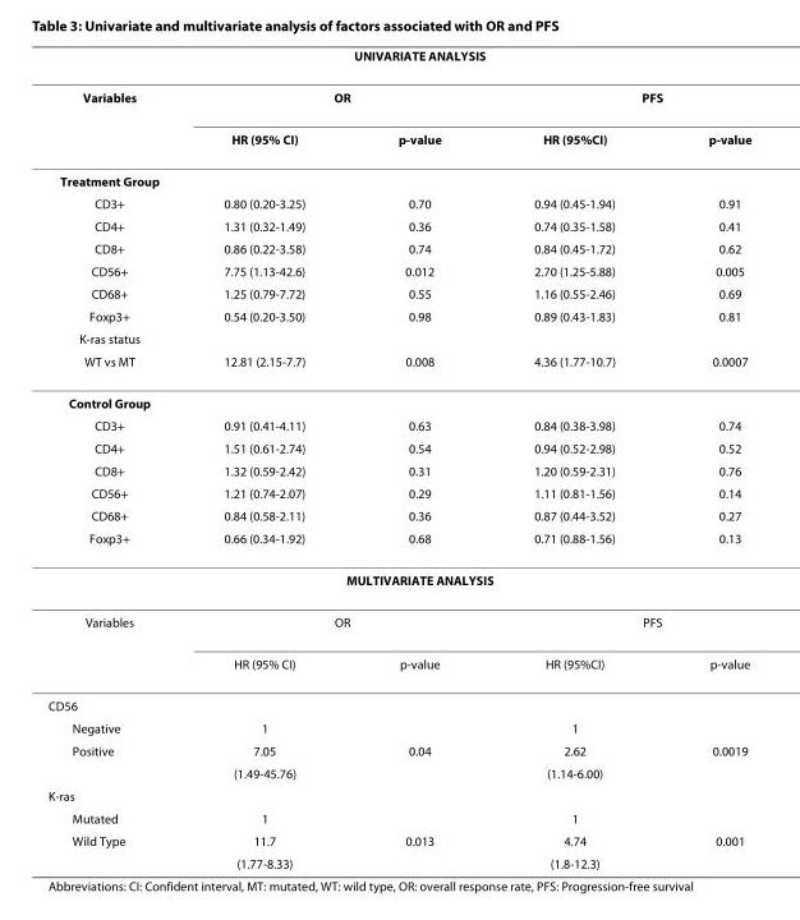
<table><thead><tr><td colspan="5">UNIVARIATE ANALYSIS</td></tr><tr><td rowspan="2">Variables</td><td colspan="2">OR</td><td colspan="2">PFS</td></tr><tr><td>HR (95% CI)</td><td>p-value</td><td>HR (95%CI)</td><td>p-value</td></tr></thead><tbody><tr><td colspan="5">Treatment Group</td></tr><tr><td>CD3+</td><td>0.80 (0.20-3.25)</td><td>0.70</td><td>0.94 (0.45-1.94)</td><td>0.91</td></tr><tr><td>CD4+</td><td>1.31 (0.32-1.49)</td><td>0.36</td><td>0.74 (0.35-1.58)</td><td>0.41</td></tr><tr><td>CD8+</td><td>0.86 (0.22-3.58)</td><td>0.74</td><td>0.84 (0.45-1.72)</td><td>0.62</td></tr><tr><td>CD56+</td><td>7.75 (1.13-42.6)</td><td>0.012</td><td>2.70 (1.25-5.88)</td><td>0.005</td></tr><tr><td>CD68+</td><td>1.25 (0.79-7.72)</td><td>0.55</td><td>1.16 (0.55-2.46)</td><td>0.69</td></tr><tr><td>Foxp3+</td><td>0.54 (0.20-3.50)</td><td>0.98</td><td>0.89 (0.43-1.83)</td><td>0.81</td></tr><tr><td colspan="5">K-ras status</td></tr><tr><td>WT vs MT</td><td>12.81 (2.15-7.7)</td><td>0.008</td><td>4.36 (1.77-10.7)</td><td>0.0007</td></tr><tr><td colspan="5">Control Group</td></tr><tr><td>CD3+</td><td>0.91 (0.41-4.11)</td><td>0.63</td><td>0.84 (0.38-3.98)</td><td>0.74</td></tr><tr><td>CD4+</td><td>1.51 (0.61-2.74)</td><td>0.54</td><td>0.94 (0.52-2.98)</td><td>0.52</td></tr><tr><td>CD8+</td><td>1.32 (0.59-2.42)</td><td>0.31</td><td>1.20 (0.59-2.31)</td><td>0.76</td></tr><tr><td>CD56+</td><td>1.21 (0.74-2.07)</td><td>0.29</td><td>1.11 (0.81-1.56)</td><td>0.14</td></tr><tr><td>CD68+</td><td>0.84 (0.58-2.11)</td><td>0.36</td><td>0.87 (0.44-3.52)</td><td>0.27</td></tr><tr><td>Foxp3+</td><td>0.66 (0.34-1.92)</td><td>0.68</td><td>0.71 (0.88-1.56)</td><td>0.13</td></tr><tr><td colspan="5">MULTIVARIATE ANALYSIS</td></tr><tr><td rowspan="2">Variables</td><td colspan="2">OR</td><td colspan="2">PFS</td></tr><tr><td>HR (95% CI)</td><td>p-value</td><td>HR (95%CI)</td><td>p-value</td></tr><tr><td colspan="5">CD56</td></tr><tr><td>Negative</td><td>1</td><td></td><td>1</td><td></td></tr><tr><td rowspan="2">Positive</td><td>7.05</td><td>0.04</td><td>2.62</td><td>0.0019</td></tr><tr><td>(1.49-45.76)</td><td></td><td>(1.14-6.00)</td><td></td></tr><tr><td colspan="5">K-ras</td></tr><tr><td>Mutated</td><td>1</td><td></td><td>1</td><td></td></tr><tr><td rowspan="2">Wild Type</td><td>11.7</td><td>0.013</td><td>4.74</td><td>0.001</td></tr><tr><td>(1.77-8.33)</td><td></td><td>(1.8-12.3)</td><td></td></tr></tbody></table>